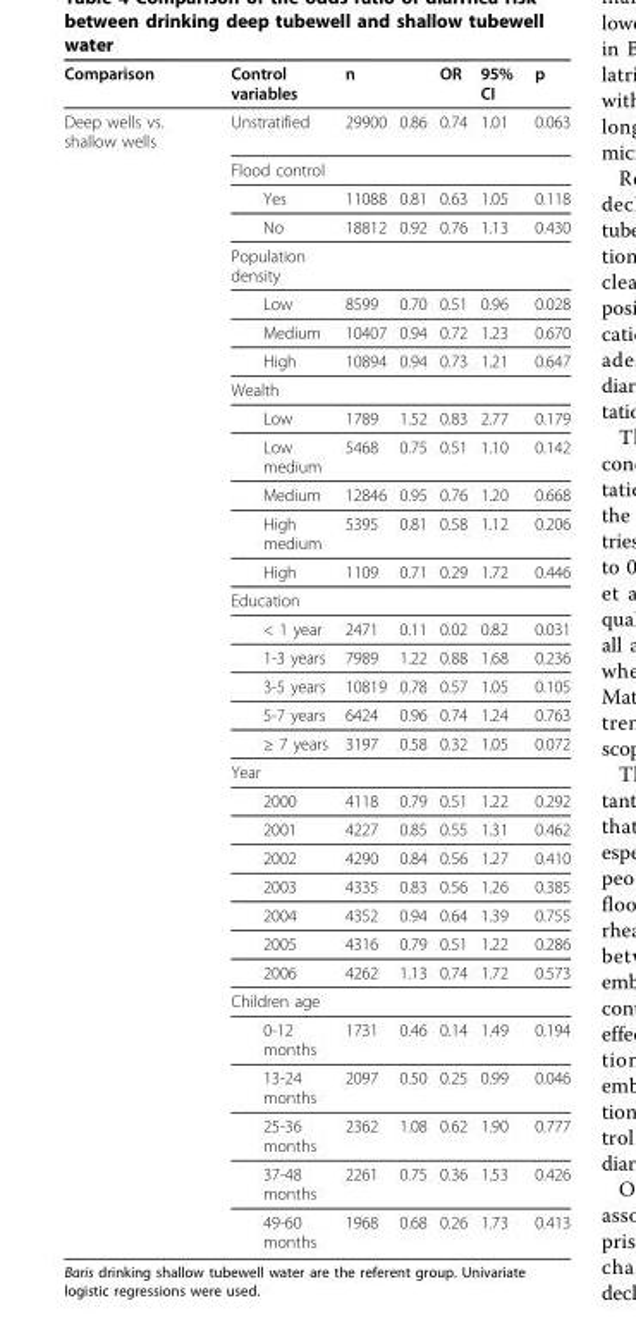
<table><thead><tr><td rowspan="2">Comparison Deep wells vs. shallow wells</td><td rowspan="2">Control variables Unstratified</td><td colspan="2">n</td><td rowspan="2">OR 0.74</td><td rowspan="2">95% CI 1.01</td><td rowspan="2">p 0.063</td></tr><tr><td>29900</td><td>0.86</td></tr></thead><tbody><tr><td></td><td>Flood control</td><td></td><td></td><td></td><td></td><td></td></tr><tr><td></td><td>Yes</td><td>11088</td><td>0.81</td><td>0.63</td><td>1.05</td><td>0.118</td></tr><tr><td></td><td>No</td><td>18812</td><td>0.92</td><td>0.76</td><td>1.13</td><td>0.430</td></tr><tr><td></td><td>Population density</td><td></td><td></td><td></td><td></td><td></td></tr><tr><td></td><td>Low</td><td>8599</td><td>0.70</td><td>0.51</td><td>0.96</td><td>0.028</td></tr><tr><td></td><td>Medium</td><td>10407</td><td>0.94</td><td>0.72</td><td>1.23</td><td>0.670</td></tr><tr><td></td><td>High</td><td>10894</td><td>0.94</td><td>0.73</td><td>1.21</td><td>0.647</td></tr><tr><td></td><td>Wealth</td><td></td><td></td><td></td><td></td><td></td></tr><tr><td></td><td>Low</td><td>1789</td><td>1.52</td><td>0.83</td><td>2.77</td><td>0.179</td></tr><tr><td></td><td>Low medium</td><td>5468</td><td>0.75</td><td>0.51</td><td>1.10</td><td>0.142</td></tr><tr><td></td><td>Medium</td><td>12846</td><td>0.95</td><td>0.76</td><td>1.20</td><td>0.668</td></tr><tr><td></td><td>High medium</td><td>5395</td><td>0.81</td><td>0.58</td><td>1.12</td><td>0.206</td></tr><tr><td></td><td>High</td><td>1109</td><td>0.71</td><td>0.29</td><td>1.72</td><td>0.446</td></tr><tr><td></td><td>Education</td><td></td><td></td><td></td><td></td><td></td></tr><tr><td></td><td>&lt; 1 year</td><td>2471</td><td>0.11</td><td>0.02</td><td>0.82</td><td>0.031</td></tr><tr><td></td><td>1-3 years</td><td>7989</td><td>1.22</td><td>0.88</td><td>1.68</td><td>0.236</td></tr><tr><td></td><td>3-5 years</td><td>10819</td><td>0.78</td><td>0.57</td><td>1.05</td><td>0.105</td></tr><tr><td></td><td>5-7 years</td><td>6424</td><td>0.96</td><td>0.74</td><td>1.24</td><td>0.763</td></tr><tr><td></td><td>≥ 7 years</td><td>3197</td><td>0.58</td><td>0.32</td><td>1.05</td><td>0.072</td></tr><tr><td></td><td>Year</td><td></td><td></td><td></td><td></td><td></td></tr><tr><td></td><td>2000</td><td>4118</td><td>0.79</td><td>0.51</td><td>1.22</td><td>0.292</td></tr><tr><td></td><td>2001</td><td>4227</td><td>0.85</td><td>0.55</td><td>1.31</td><td>0.462</td></tr><tr><td></td><td>2002</td><td>4290</td><td>0.84</td><td>0.56</td><td>1.27</td><td>0.410</td></tr><tr><td></td><td>2003</td><td>4335</td><td>0.83</td><td>0.56</td><td>1.26</td><td>0.385</td></tr><tr><td></td><td>2004</td><td>4352</td><td>0.94</td><td>0.64</td><td>1.39</td><td>0.755</td></tr><tr><td></td><td>2005</td><td>4316</td><td>0.79</td><td>0.51</td><td>1.22</td><td>0.286</td></tr><tr><td></td><td>2006</td><td>4262</td><td>1.13</td><td>0.74</td><td>1.72</td><td>0.573</td></tr><tr><td></td><td>Children age</td><td></td><td></td><td></td><td></td><td></td></tr><tr><td></td><td>0-12 months</td><td>1731</td><td>0.46</td><td>0.14</td><td>1.49</td><td>0.194</td></tr><tr><td></td><td>13-24 months</td><td>2097</td><td>0.50</td><td>0.25</td><td>0.99</td><td>0.046</td></tr><tr><td></td><td>25-36 months</td><td>2362</td><td>1.08</td><td>0.62</td><td>1.90</td><td>0.777</td></tr><tr><td></td><td>37-48 months</td><td>2261</td><td>0.75</td><td>0.36</td><td>1.53</td><td>0.426</td></tr><tr><td></td><td>49-60 months</td><td>1968</td><td>0.68</td><td>0.26</td><td>1.73</td><td>0.413</td></tr></tbody></table>